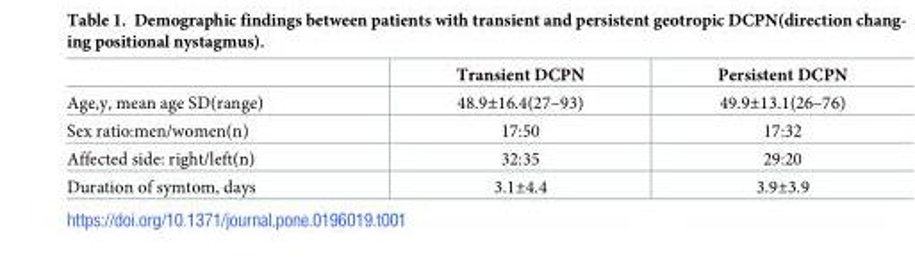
<table><thead><tr><td></td><td>Transient DCPN</td><td>Persistent DCPN</td></tr></thead><tbody><tr><td>Age,y, mean age SD(range)</td><td>48.9±16.4(27–93)</td><td>49.9±13.1(26–76)</td></tr><tr><td>Sex ratio:men/women(n)</td><td>17:50</td><td>17:32</td></tr><tr><td>Affected side: right/left(n)</td><td>32:35</td><td>29:20</td></tr><tr><td>Duration of symtom, days</td><td>3.1±4.4</td><td>3.9±3.9</td></tr></tbody></table>